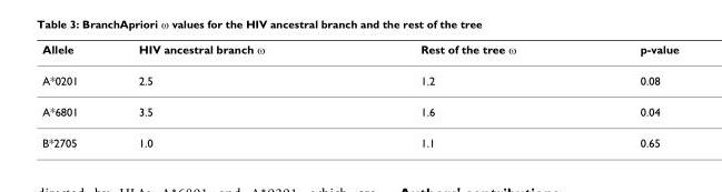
<table><thead><tr><td>Allele</td><td>HIV ancestral branch ω</td><td>Rest of the tree ω</td><td>p-value</td></tr></thead><tbody><tr><td>A*0201</td><td>2.5</td><td>1.2</td><td>0.08</td></tr><tr><td>A*6801</td><td>3.5</td><td>1.6</td><td>0.04</td></tr><tr><td>B*2705</td><td>1.0</td><td>1.1</td><td>0.65</td></tr></tbody></table>